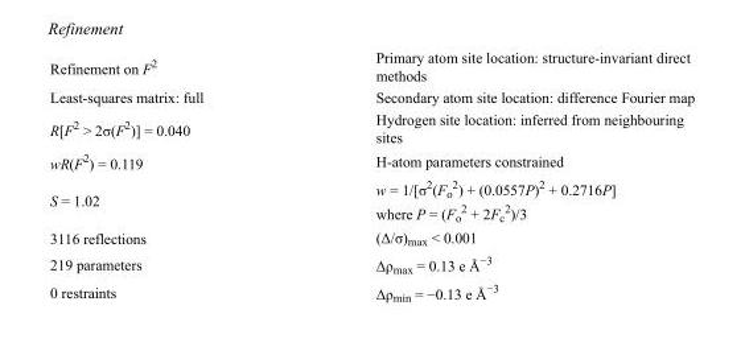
<table><tbody><tr><td>Refinement on F<sup>2</sup></td><td>Primary atom site location: structure-invariant direct methods</td></tr><tr><td>Least-squares matrix: full</td><td>Secondary atom site location: difference Fourier map</td></tr><tr><td>R[F<sup>2</sup> &gt; 2σ(F<sup>2</sup>)] = 0.040</td><td>Hydrogen site location: inferred from neighbouring sites</td></tr><tr><td>wR(F<sup>2</sup>) = 0.119</td><td>H-atom parameters constrained</td></tr><tr><td>S = 1.02</td><td>w = 1/[σ<sup>2</sup>(F<sub>o</sub> <sup>2</sup>) + (0.0557P)<sup>2</sup> + 0.2716P] where P = (F<sub>o</sub> <sup>2</sup> + 2F<sub>c</sub> <sup>2</sup>)/3</td></tr><tr><td>3116 reflections</td><td>(Δ/σ)<sub>max</sub> &lt; 0.001</td></tr><tr><td>219 parameters</td><td>Δρ<sub>max</sub> = 0.13 e Å<sup>−3</sup></td></tr><tr><td>0 restraints</td><td>Δρ<sub>min</sub> = −0.13 e Å<sup>−3</sup></td></tr></tbody></table>